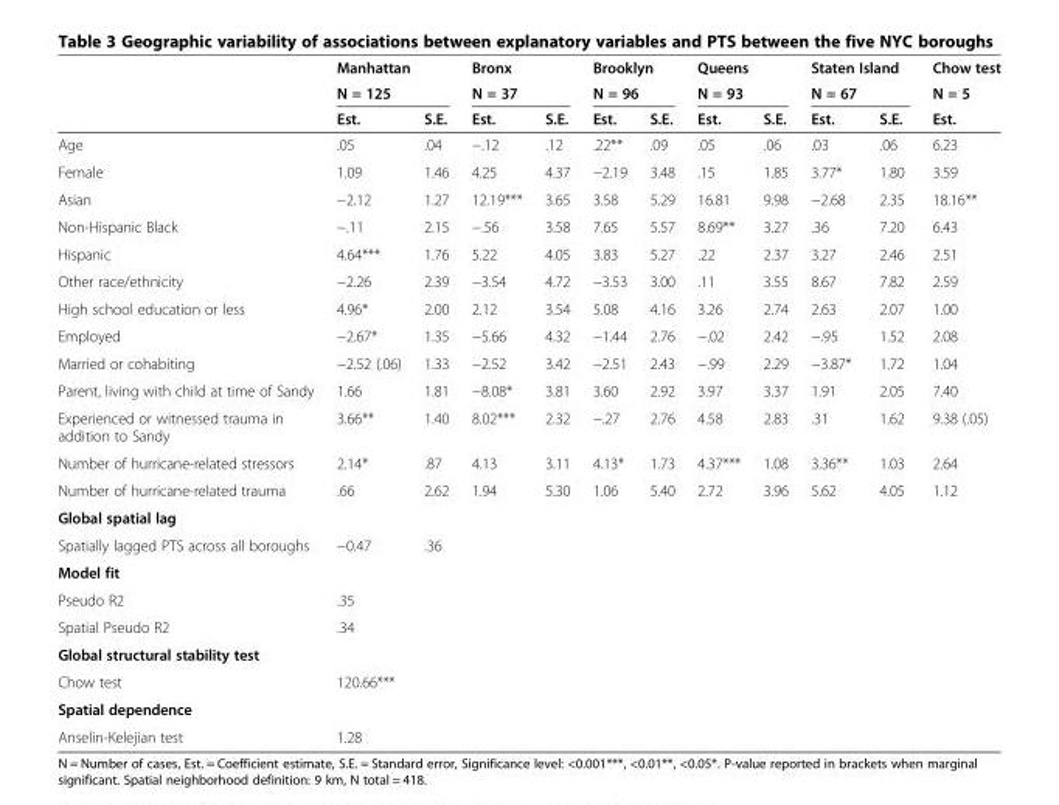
<table><thead><tr><td rowspan="3"></td><td rowspan="2" colspan="2">Manhattan N = 125</td><td rowspan="2" colspan="2">Bronx N = 37</td><td rowspan="2" colspan="2">Brooklyn N = 96</td><td rowspan="2" colspan="2">Queens N = 93</td><td rowspan="2" colspan="2">Staten Island N = 67</td><td rowspan="3">Chow test N = 5 Est.</td></tr><tr></tr><tr><td>Est.</td><td>S.E.</td><td>Est.</td><td>S.E.</td><td>Est.</td><td>S.E.</td><td>Est.</td><td>S.E.</td><td>Est.</td><td>S.E.</td></tr></thead><tbody><tr><td>Age</td><td>.05</td><td>.04</td><td>−.12</td><td>.12</td><td>.22**</td><td>.09</td><td>.05</td><td>.06</td><td>.03</td><td>.06</td><td>6.23</td></tr><tr><td>Female</td><td>1.09</td><td>1.46</td><td>4.25</td><td>4.37</td><td>−2.19</td><td>3.48</td><td>.15</td><td>1.85</td><td>3.77*</td><td>1.80</td><td>3.59</td></tr><tr><td>Asian</td><td>−2.12</td><td>1.27</td><td>12.19***</td><td>3.65</td><td>3.58</td><td>5.29</td><td>16.81</td><td>9.98</td><td>−2.68</td><td>2.35</td><td>18.16**</td></tr><tr><td>Non-Hispanic Black</td><td>−.11</td><td>2.15</td><td>−.56</td><td>3.58</td><td>7.65</td><td>5.57</td><td>8.69**</td><td>3.27</td><td>.36</td><td>7.20</td><td>6.43</td></tr><tr><td>Hispanic</td><td>4.64***</td><td>1.76</td><td>5.22</td><td>4.05</td><td>3.83</td><td>5.27</td><td>.22</td><td>2.37</td><td>3.27</td><td>2.46</td><td>2.51</td></tr><tr><td>Other race/ethnicity</td><td>−2.26</td><td>2.39</td><td>−3.54</td><td>4.72</td><td>−3.53</td><td>3.00</td><td>.11</td><td>3.55</td><td>8.67</td><td>7.82</td><td>2.59</td></tr><tr><td>High school education or less</td><td>4.96*</td><td>2.00</td><td>2.12</td><td>3.54</td><td>5.08</td><td>4.16</td><td>3.26</td><td>2.74</td><td>2.63</td><td>2.07</td><td>1.00</td></tr><tr><td>Employed</td><td>−2.67*</td><td>1.35</td><td>−5.66</td><td>4.32</td><td>−1.44</td><td>2.76</td><td>−.02</td><td>2.42</td><td>−.95</td><td>1.52</td><td>2.08</td></tr><tr><td>Married or cohabiting</td><td>−2.52 (.06)</td><td>1.33</td><td>−2.52</td><td>3.42</td><td>−2.51</td><td>2.43</td><td>−.99</td><td>2.29</td><td>−3.87*</td><td>1.72</td><td>1.04</td></tr><tr><td>Parent, living with child at time of Sandy</td><td>1.66</td><td>1.81</td><td>−8.08*</td><td>3.81</td><td>3.60</td><td>2.92</td><td>3.97</td><td>3.37</td><td>1.91</td><td>2.05</td><td>7.40</td></tr><tr><td>Experienced or witnessed trauma in addition to Sandy</td><td>3.66**</td><td>1.40</td><td>8.02***</td><td>2.32</td><td>−.27</td><td>2.76</td><td>4.58</td><td>2.83</td><td>.31</td><td>1.62</td><td>9.38 (.05)</td></tr><tr><td>Number of hurricane-related stressors</td><td>2.14*</td><td>.87</td><td>4.13</td><td>3.11</td><td>4.13*</td><td>1.73</td><td>4.37***</td><td>1.08</td><td>3.36**</td><td>1.03</td><td>2.64</td></tr><tr><td>Number of hurricane-related trauma</td><td>.66</td><td>2.62</td><td>1.94</td><td>5.30</td><td>1.06</td><td>5.40</td><td>2.72</td><td>3.96</td><td>5.62</td><td>4.05</td><td>1.12</td></tr><tr><td colspan="12">Global spatial lag</td></tr><tr><td>Spatially lagged PTS across all boroughs</td><td>−0.47</td><td>.36</td><td></td><td></td><td></td><td></td><td></td><td></td><td></td><td></td><td></td></tr><tr><td colspan="12">Model fit</td></tr><tr><td>Pseudo R2</td><td>.35</td><td></td><td></td><td></td><td></td><td></td><td></td><td></td><td></td><td></td><td></td></tr><tr><td>Spatial Pseudo R2</td><td>.34</td><td></td><td></td><td></td><td></td><td></td><td></td><td></td><td></td><td></td><td></td></tr><tr><td colspan="12">Global structural stability test</td></tr><tr><td>Chow test</td><td>120.66***</td><td></td><td></td><td></td><td></td><td></td><td></td><td></td><td></td><td></td><td></td></tr><tr><td colspan="12">Spatial dependence</td></tr><tr><td>Anselin-Kelejian test</td><td>1.28</td><td></td><td></td><td></td><td></td><td></td><td></td><td></td><td></td><td></td><td></td></tr></tbody></table>